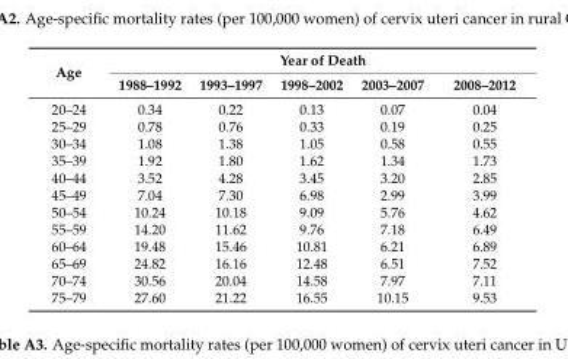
<table><thead><tr><td rowspan="2">Age</td><td colspan="5">Year of Death</td></tr><tr><td>1988–1992</td><td>1993–1997</td><td>1998–2002</td><td>2003–2007</td><td>2008–2012</td></tr></thead><tbody><tr><td>20–24</td><td>0.34</td><td>0.22</td><td>0.13</td><td>0.07</td><td>0.04</td></tr><tr><td>25–29</td><td>0.78</td><td>0.76</td><td>0.33</td><td>0.19</td><td>0.25</td></tr><tr><td>30–34</td><td>1.08</td><td>1.38</td><td>1.05</td><td>0.58</td><td>0.55</td></tr><tr><td>35–39</td><td>1.92</td><td>1.80</td><td>1.62</td><td>1.34</td><td>1.73</td></tr><tr><td>40–44</td><td>3.52</td><td>4.28</td><td>3.45</td><td>3.20</td><td>2.85</td></tr><tr><td>45–49</td><td>7.04</td><td>7.30</td><td>6.98</td><td>2.99</td><td>3.99</td></tr><tr><td>50–54</td><td>10.24</td><td>10.18</td><td>9.09</td><td>5.76</td><td>4.62</td></tr><tr><td>55–59</td><td>14.20</td><td>11.62</td><td>9.76</td><td>7.18</td><td>6.49</td></tr><tr><td>60–64</td><td>19.48</td><td>15.46</td><td>10.81</td><td>6.21</td><td>6.89</td></tr><tr><td>65–69</td><td>24.82</td><td>16.16</td><td>12.48</td><td>6.51</td><td>7.52</td></tr><tr><td>70–74</td><td>30.56</td><td>20.04</td><td>14.58</td><td>7.97</td><td>7.11</td></tr><tr><td>75–79</td><td>27.60</td><td>21.22</td><td>16.55</td><td>10.15</td><td>9.53</td></tr></tbody></table>